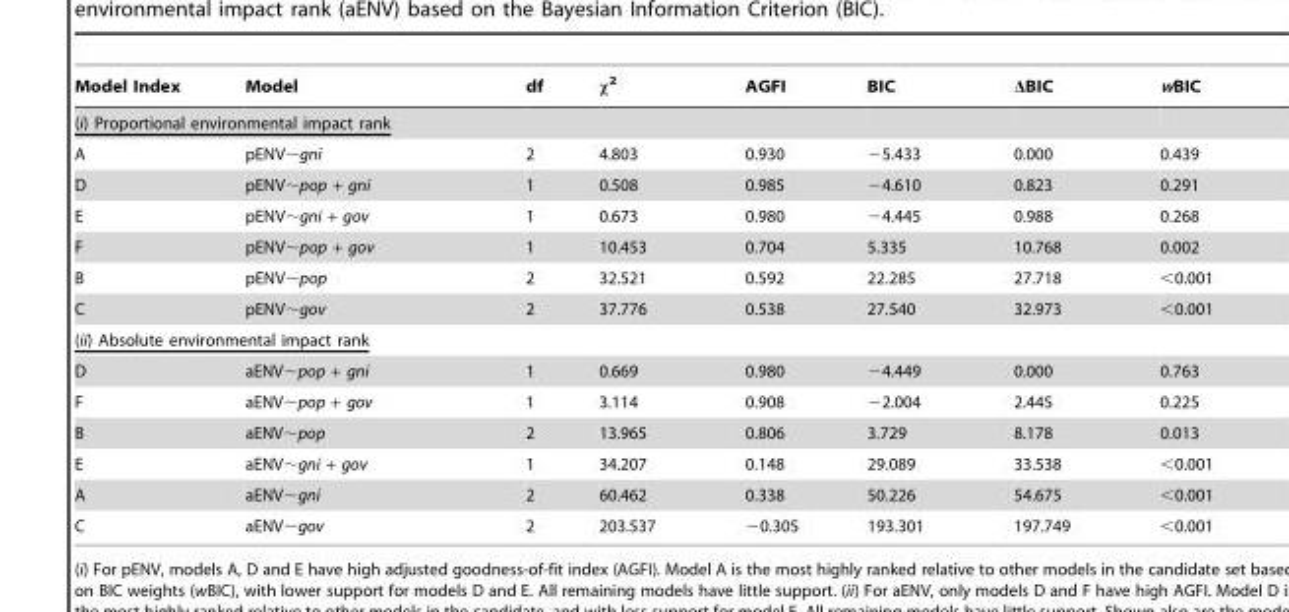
<table><thead><tr><td>Model Index</td><td>Model</td><td>df</td><td>χ<sup>2</sup></td><td>AGFI</td><td>BIC</td><td>ΔBIC</td><td>wBIC</td></tr></thead><tbody><tr><td colspan="8">(i) Proportional environmental impact rank</td></tr><tr><td>A</td><td>pENV∼gni</td><td>2</td><td>4.803</td><td>0.930</td><td>−5.433</td><td>0.000</td><td>0.439</td></tr><tr><td>D</td><td>pENV∼pop + gni</td><td>1</td><td>0.508</td><td>0.985</td><td>−4.610</td><td>0.823</td><td>0.291</td></tr><tr><td>E</td><td>pENV∼gni + gov</td><td>1</td><td>0.673</td><td>0.980</td><td>−4.445</td><td>0.988</td><td>0.268</td></tr><tr><td>F</td><td>pENV∼pop + gov</td><td>1</td><td>10.453</td><td>0.704</td><td>5.335</td><td>10.768</td><td>0.002</td></tr><tr><td>B</td><td>pENV∼pop</td><td>2</td><td>32.521</td><td>0.592</td><td>22.285</td><td>27.718</td><td>&lt;0.001</td></tr><tr><td>C</td><td>pENV∼gov</td><td>2</td><td>37.776</td><td>0.538</td><td>27.540</td><td>32.973</td><td>&lt;0.001</td></tr><tr><td colspan="8">(ii) Absolute environmental impact rank</td></tr><tr><td>D</td><td>aENV∼pop + gni</td><td>1</td><td>0.669</td><td>0.980</td><td>−4.449</td><td>0.000</td><td>0.763</td></tr><tr><td>F</td><td>aENV∼pop + gov</td><td>1</td><td>3.114</td><td>0.908</td><td>−2.004</td><td>2.445</td><td>0.225</td></tr><tr><td>B</td><td>aENV∼pop</td><td>2</td><td>13.965</td><td>0.806</td><td>3.729</td><td>8.178</td><td>0.013</td></tr><tr><td>E</td><td>aENV∼gni + gov</td><td>1</td><td>34.207</td><td>0.148</td><td>29.089</td><td>33.538</td><td>&lt;0.001</td></tr><tr><td>A</td><td>aENV∼gni</td><td>2</td><td>60.462</td><td>0.338</td><td>50.226</td><td>54.675</td><td>&lt;0.001</td></tr><tr><td>C</td><td>aENV∼gov</td><td>2</td><td>203.537</td><td>−0.305</td><td>193.301</td><td>197.749</td><td>&lt;0.001</td></tr></tbody></table>